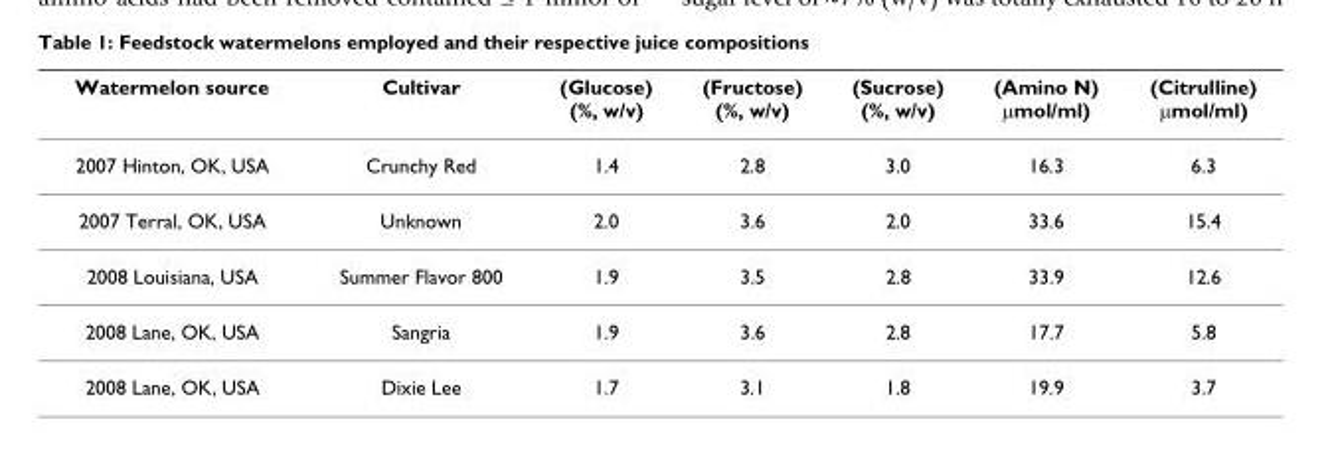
<table><thead><tr><td>Watermelon source</td><td>Cultivar</td><td>(Glucose) (%, w/v)</td><td>(Fructose) (%, w/v)</td><td>(Sucrose) (%, w/v)</td><td>(Amino N) μmol/ml)</td><td>(Citrulline) μmol/ml)</td></tr></thead><tbody><tr><td>2007 Hinton, OK, USA</td><td>Crunchy Red</td><td>1.4</td><td>2.8</td><td>3.0</td><td>16.3</td><td>6.3</td></tr><tr><td>2007 Terral, OK, USA</td><td>Unknown</td><td>2.0</td><td>3.6</td><td>2.0</td><td>33.6</td><td>15.4</td></tr><tr><td>2008 Louisiana, USA</td><td>Summer Flavor 800</td><td>1.9</td><td>3.5</td><td>2.8</td><td>33.9</td><td>12.6</td></tr><tr><td>2008 Lane, OK, USA</td><td>Sangria</td><td>1.9</td><td>3.6</td><td>2.8</td><td>17.7</td><td>5.8</td></tr><tr><td>2008 Lane, OK, USA</td><td>Dixie Lee</td><td>1.7</td><td>3.1</td><td>1.8</td><td>19.9</td><td>3.7</td></tr></tbody></table>